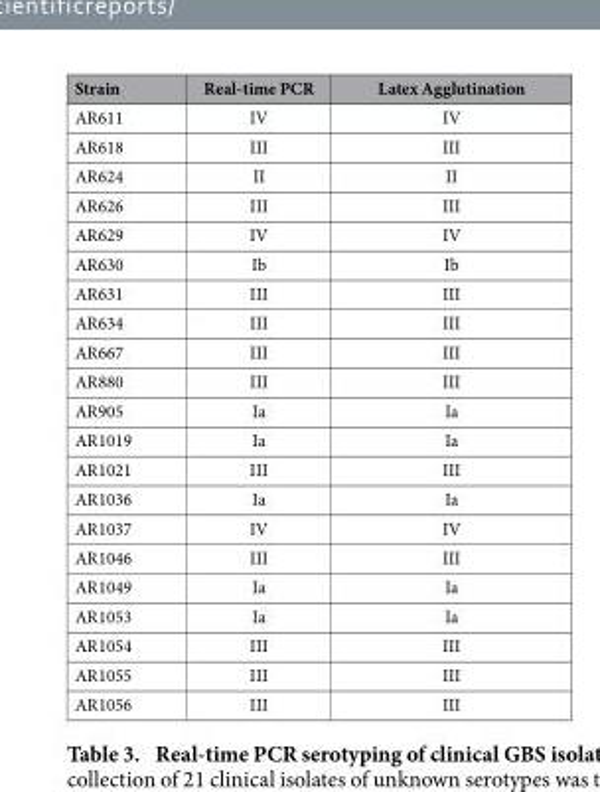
<table><thead><tr><td>Strain</td><td>Real-time PCR</td><td>Latex Agglutination</td></tr></thead><tbody><tr><td>AR611</td><td>IV</td><td>IV</td></tr><tr><td>AR618</td><td>III</td><td>III</td></tr><tr><td>AR624</td><td>II</td><td>II</td></tr><tr><td>AR626</td><td>III</td><td>III</td></tr><tr><td>AR629</td><td>IV</td><td>IV</td></tr><tr><td>AR630</td><td>Ib</td><td>Ib</td></tr><tr><td>AR631</td><td>III</td><td>III</td></tr><tr><td>AR634</td><td>III</td><td>III</td></tr><tr><td>AR667</td><td>III</td><td>III</td></tr><tr><td>AR880</td><td>III</td><td>III</td></tr><tr><td>AR905</td><td>Ia</td><td>Ia</td></tr><tr><td>AR1019</td><td>Ia</td><td>Ia</td></tr><tr><td>AR1021</td><td>III</td><td>III</td></tr><tr><td>AR1036</td><td>Ia</td><td>Ia</td></tr><tr><td>AR1037</td><td>IV</td><td>IV</td></tr><tr><td>AR1046</td><td>III</td><td>III</td></tr><tr><td>AR1049</td><td>Ia</td><td>Ia</td></tr><tr><td>AR1053</td><td>Ia</td><td>Ia</td></tr><tr><td>AR1054</td><td>III</td><td>III</td></tr><tr><td>AR1055</td><td>III</td><td>III</td></tr><tr><td>AR1056</td><td>III</td><td>III</td></tr></tbody></table>